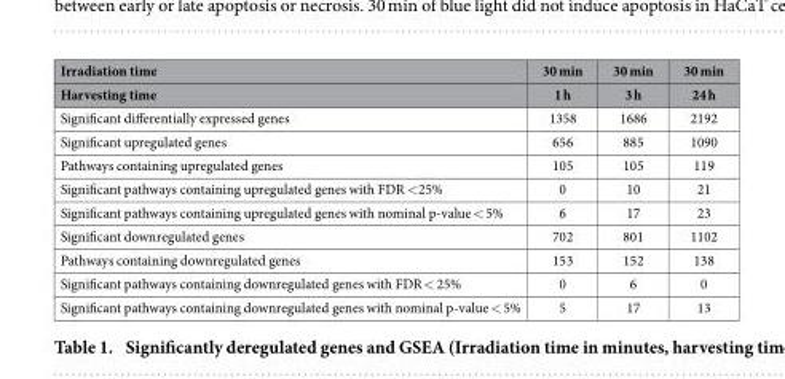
<table><thead><tr><td rowspan="2">Irradiation time Harvesting time</td><td rowspan="2">30 min 1 h</td><td rowspan="2">30 min 3 h</td><td rowspan="2">30 min 24 h</td></tr><tr></tr></thead><tbody><tr><td>Significant differentially expressed genes</td><td>1358</td><td>1686</td><td>2192</td></tr><tr><td>Significant upregulated genes</td><td>656</td><td>885</td><td>1090</td></tr><tr><td>Pathways containing upregulated genes</td><td>105</td><td>105</td><td>119</td></tr><tr><td>Significant pathways containing upregulated genes with FDR &lt; 25%</td><td>0</td><td>10</td><td>21</td></tr><tr><td>Significant pathways containing upregulated genes with nominal p-value &lt; 5%</td><td>6</td><td>17</td><td>23</td></tr><tr><td>Significant downregulated genes</td><td>702</td><td>801</td><td>1102</td></tr><tr><td>Pathways containing downregulated genes</td><td>153</td><td>152</td><td>138</td></tr><tr><td>Significant pathways containing downregulated genes with FDR &lt; 25%</td><td>0</td><td>6</td><td>0</td></tr><tr><td>Significant pathways containing downregulated genes with nominal p-value &lt; 5%</td><td>5</td><td>17</td><td>13</td></tr></tbody></table>